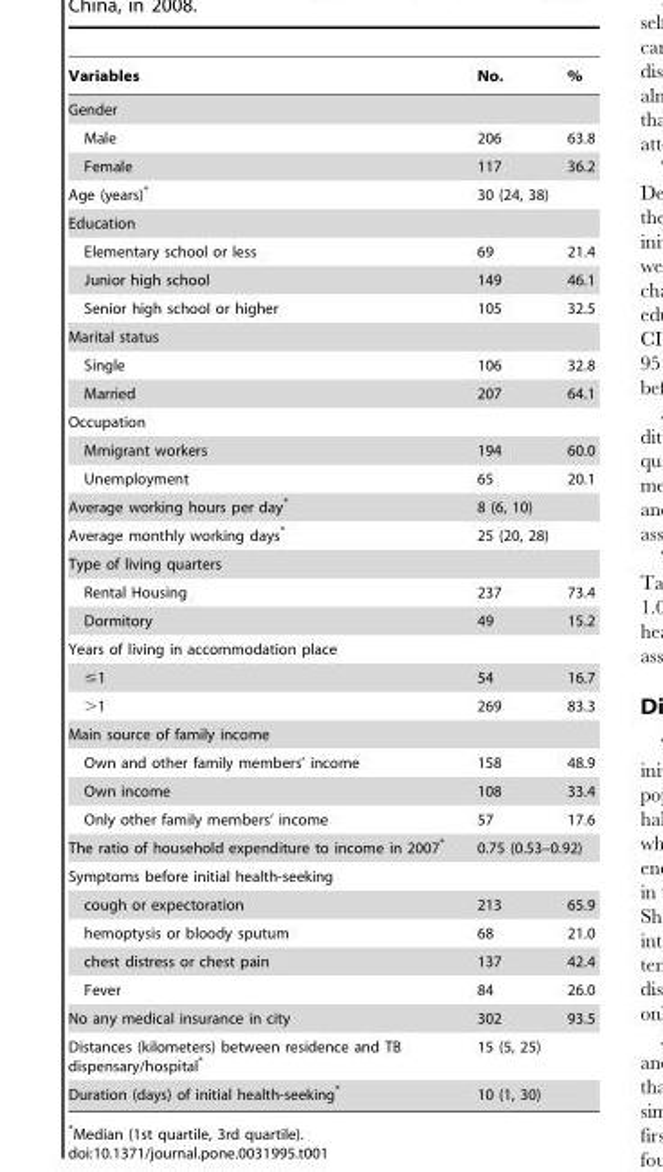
<table><thead><tr><td>Variables</td><td>No.</td><td>%</td></tr></thead><tbody><tr><td colspan="3">Gender</td></tr><tr><td>Male</td><td>206</td><td>63.8</td></tr><tr><td>Female</td><td>117</td><td>36.2</td></tr><tr><td>Age (years)*</td><td colspan="2">30 (24, 38)</td></tr><tr><td colspan="3">Education</td></tr><tr><td>Elementary school or less</td><td>69</td><td>21.4</td></tr><tr><td>Junior high school</td><td>149</td><td>46.1</td></tr><tr><td>Senior high school or higher</td><td>105</td><td>32.5</td></tr><tr><td colspan="3">Marital status</td></tr><tr><td>Single</td><td>106</td><td>32.8</td></tr><tr><td>Married</td><td>207</td><td>64.1</td></tr><tr><td colspan="3">Occupation</td></tr><tr><td>Mmigrant workers</td><td>194</td><td>60.0</td></tr><tr><td>Unemployment</td><td>65</td><td>20.1</td></tr><tr><td>Average working hours per day*</td><td colspan="2">8 (6, 10)</td></tr><tr><td>Average monthly working days*</td><td colspan="2">25 (20, 28)</td></tr><tr><td colspan="3">Type of living quarters</td></tr><tr><td>Rental Housing</td><td>237</td><td>73.4</td></tr><tr><td>Dormitory</td><td>49</td><td>15.2</td></tr><tr><td colspan="3">Years of living in accommodation place</td></tr><tr><td>≤1</td><td>54</td><td>16.7</td></tr><tr><td>&gt;1</td><td>269</td><td>83.3</td></tr><tr><td colspan="3">Main source of family income</td></tr><tr><td>Own and other family members’ income</td><td>158</td><td>48.9</td></tr><tr><td>Own income</td><td>108</td><td>33.4</td></tr><tr><td>Only other family members’ income</td><td>57</td><td>17.6</td></tr><tr><td>The ratio of household expenditure to income in 2007*</td><td colspan="2">0.75 (0.53–0.92)</td></tr><tr><td colspan="3">Symptoms before initial health-seeking</td></tr><tr><td>cough or expectoration</td><td>213</td><td>65.9</td></tr><tr><td>hemoptysis or bloody sputum</td><td>68</td><td>21.0</td></tr><tr><td>chest distress or chest pain</td><td>137</td><td>42.4</td></tr><tr><td>Fever</td><td>84</td><td>26.0</td></tr><tr><td>No any medical insurance in city</td><td>302</td><td>93.5</td></tr><tr><td>Distances (kilometers) between residence and TB dispensary/hospital*</td><td colspan="2">15 (5, 25)</td></tr><tr><td>Duration (days) of initial health-seeking*</td><td colspan="2">10 (1, 30)</td></tr></tbody></table>